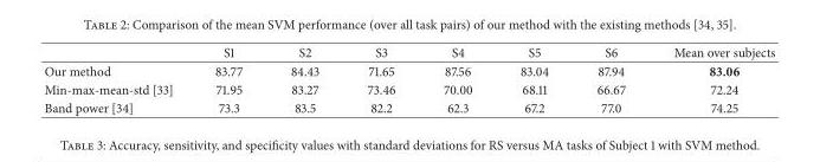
<table><thead><tr><td></td><td>S1</td><td>S2</td><td>S3</td><td>S4</td><td>S5</td><td>S6</td><td>Mean over subjects</td></tr></thead><tbody><tr><td>Our method</td><td>83.77</td><td>84.43</td><td>71.65</td><td>87.56</td><td>83.04</td><td>87.94</td><td>83.06</td></tr><tr><td>Min-max-mean-std [33]</td><td>71.95</td><td>83.27</td><td>73.46</td><td>70.00</td><td>68.11</td><td>66.67</td><td>72.24</td></tr><tr><td>Band power [34]</td><td>73.3</td><td>83.5</td><td>82.2</td><td>62.3</td><td>67.2</td><td>77.0</td><td>74.25</td></tr></tbody></table>